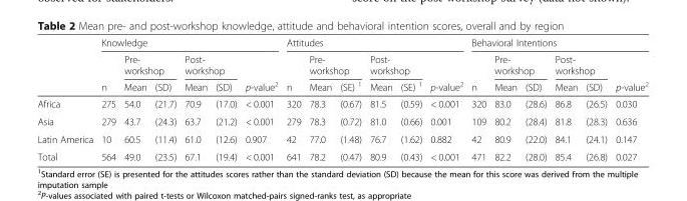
<table><thead><tr><td rowspan="3"></td><td colspan="6">Knowledge</td><td colspan="6">Attitudes</td><td colspan="6">Behavioral Intentions</td></tr><tr><td rowspan="2">n</td><td colspan="2">Pre- workshop</td><td colspan="2">Post- workshop</td><td rowspan="2">p-value<sup>2</sup></td><td rowspan="2">n</td><td colspan="2">Pre- workshop</td><td colspan="2">Post- workshop</td><td rowspan="2">p-value<sup>2</sup></td><td rowspan="2">n</td><td colspan="2">Pre- workshop</td><td colspan="2">Post- workshop</td><td rowspan="2">p-value<sup>2</sup></td></tr><tr><td>Mean</td><td>(SD)</td><td>Mean</td><td>(SD)</td><td>Mean</td><td>(SE) <sup>1</sup></td><td>Mean</td><td>(SE) <sup>1</sup></td><td>Mean</td><td>(SD)</td><td>Mean</td><td>(SD)</td></tr></thead><tbody><tr><td>Africa</td><td>275</td><td>54.0</td><td>(21.7)</td><td>70.9</td><td>(17.0)</td><td>&lt; 0.001</td><td>320</td><td>78.3</td><td>(0.67)</td><td>81.5</td><td>(0.59)</td><td>&lt; 0.001</td><td>320</td><td>83.0</td><td>(28.6)</td><td>86.8</td><td>(26.5)</td><td>0.030</td></tr><tr><td>Asia</td><td>279</td><td>43.7</td><td>(24.3)</td><td>63.7</td><td>(21.2)</td><td>&lt; 0.001</td><td>279</td><td>78.3</td><td>(0.72)</td><td>81.0</td><td>(0.66)</td><td>0.001</td><td>109</td><td>80.2</td><td>(28.4)</td><td>81.8</td><td>(28.3)</td><td>0.636</td></tr><tr><td>Latin America</td><td>10</td><td>60.5</td><td>(11.4)</td><td>61.0</td><td>(12.6)</td><td>0.907</td><td>42</td><td>77.0</td><td>(1.48)</td><td>76.7</td><td>(1.62)</td><td>0.882</td><td>42</td><td>80.9</td><td>(22.0)</td><td>84.1</td><td>(24.1)</td><td>0.147</td></tr><tr><td>Total</td><td>564</td><td>49.0</td><td>(23.5)</td><td>67.1</td><td>(19.4)</td><td>&lt; 0.001</td><td>641</td><td>78.2</td><td>(0.47)</td><td>80.9</td><td>(0.43)</td><td>&lt; 0.001</td><td>471</td><td>82.2</td><td>(28.0)</td><td>85.4</td><td>(26.8)</td><td>0.027</td></tr></tbody></table>